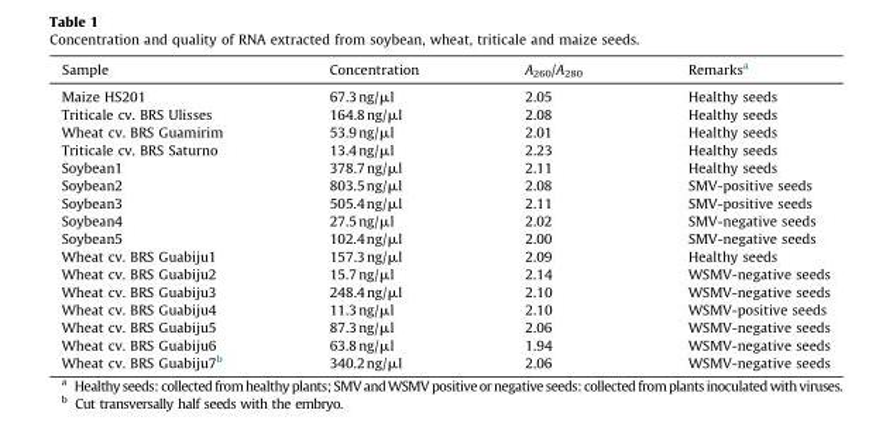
<table><thead><tr><td>Sample</td><td>Concentration</td><td>A<sub>260</sub>/A<sub>280</sub></td><td>Remarks<sup>a</sup></td></tr></thead><tbody><tr><td>Maize HS201</td><td>67.3ng/μl</td><td>2.05</td><td>Healthy seeds</td></tr><tr><td>Triticale cv. BRS Ulisses</td><td>164.8ng/μl</td><td>2.08</td><td>Healthy seeds</td></tr><tr><td>Wheat cv. BRS Guamirim</td><td>53.9ng/μl</td><td>2.01</td><td>Healthy seeds</td></tr><tr><td>Triticale cv. BRS Saturno</td><td>13.4ng/μl</td><td>2.23</td><td>Healthy seeds</td></tr><tr><td>Soybean1</td><td>378.7ng/μl</td><td>2.11</td><td>Healthy seeds</td></tr><tr><td>Soybean2</td><td>803.5ng/μl</td><td>2.08</td><td>SMV-positive seeds</td></tr><tr><td>Soybean3</td><td>505.4ng/μl</td><td>2.11</td><td>SMV-positive seeds</td></tr><tr><td>Soybean4</td><td>27.5ng/μl</td><td>2.02</td><td>SMV-negative seeds</td></tr><tr><td>Soybean5</td><td>102.4ng/μl</td><td>2.00</td><td>SMV-negative seeds</td></tr><tr><td>Wheat cv. BRS Guabiju1</td><td>157.3ng/μl</td><td>2.09</td><td>Healthy seeds</td></tr><tr><td>Wheat cv. BRS Guabiju2</td><td>15.7ng/μl</td><td>2.14</td><td>WSMV-negative seeds</td></tr><tr><td>Wheat cv. BRS Guabiju3</td><td>248.4ng/μl</td><td>2.10</td><td>WSMV-negative seeds</td></tr><tr><td>Wheat cv. BRS Guabiju4</td><td>11.3ng/μl</td><td>2.10</td><td>WSMV-positive seeds</td></tr><tr><td>Wheat cv. BRS Guabiju5</td><td>87.3ng/μl</td><td>2.06</td><td>WSMV-negative seeds</td></tr><tr><td>Wheat cv. BRS Guabiju6</td><td>63.8ng/μl</td><td>1.94</td><td>WSMV-negative seeds</td></tr><tr><td>Wheat cv. BRS Guabiju7<sup>b</sup></td><td>340.2ng/μl</td><td>2.06</td><td>WSMV-negative seeds</td></tr></tbody></table>